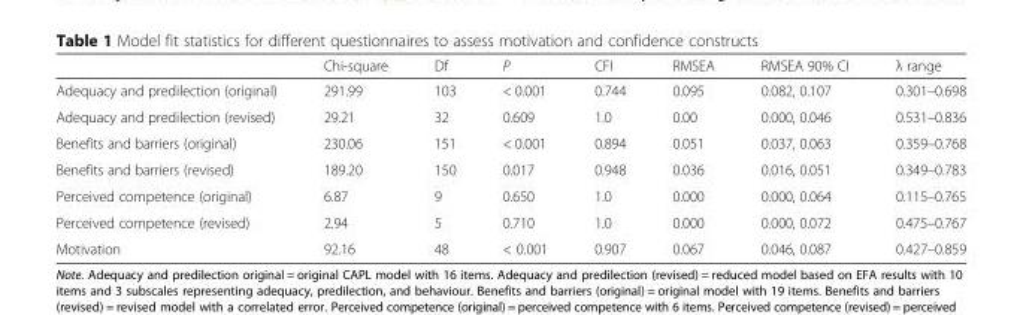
<table><thead><tr><td></td><td>Chi-square</td><td>Df</td><td>P</td><td>CFI</td><td>RMSEA</td><td>RMSEA 90% CI</td><td>λ range</td></tr></thead><tbody><tr><td>Adequacy and predilection (original)</td><td>291.99</td><td>103</td><td>&lt; 0.001</td><td>0.744</td><td>0.095</td><td>0.082, 0.107</td><td>0.301–0.698</td></tr><tr><td>Adequacy and predilection (revised)</td><td>29.21</td><td>32</td><td>0.609</td><td>1.0</td><td>0.00</td><td>0.000, 0.046</td><td>0.531–0.836</td></tr><tr><td>Benefits and barriers (original)</td><td>230.06</td><td>151</td><td>&lt; 0.001</td><td>0.894</td><td>0.051</td><td>0.037, 0.063</td><td>0.359–0.768</td></tr><tr><td>Benefits and barriers (revised)</td><td>189.20</td><td>150</td><td>0.017</td><td>0.948</td><td>0.036</td><td>0.016, 0.051</td><td>0.349–0.783</td></tr><tr><td>Perceived competence (original)</td><td>6.87</td><td>9</td><td>0.650</td><td>1.0</td><td>0.000</td><td>0.000, 0.064</td><td>0.115–0.765</td></tr><tr><td>Perceived competence (revised)</td><td>2.94</td><td>5</td><td>0.710</td><td>1.0</td><td>0.000</td><td>0.000, 0.072</td><td>0.475–0.767</td></tr><tr><td>Motivation</td><td>92.16</td><td>48</td><td>&lt; 0.001</td><td>0.907</td><td>0.067</td><td>0.046, 0.087</td><td>0.427–0.859</td></tr></tbody></table>